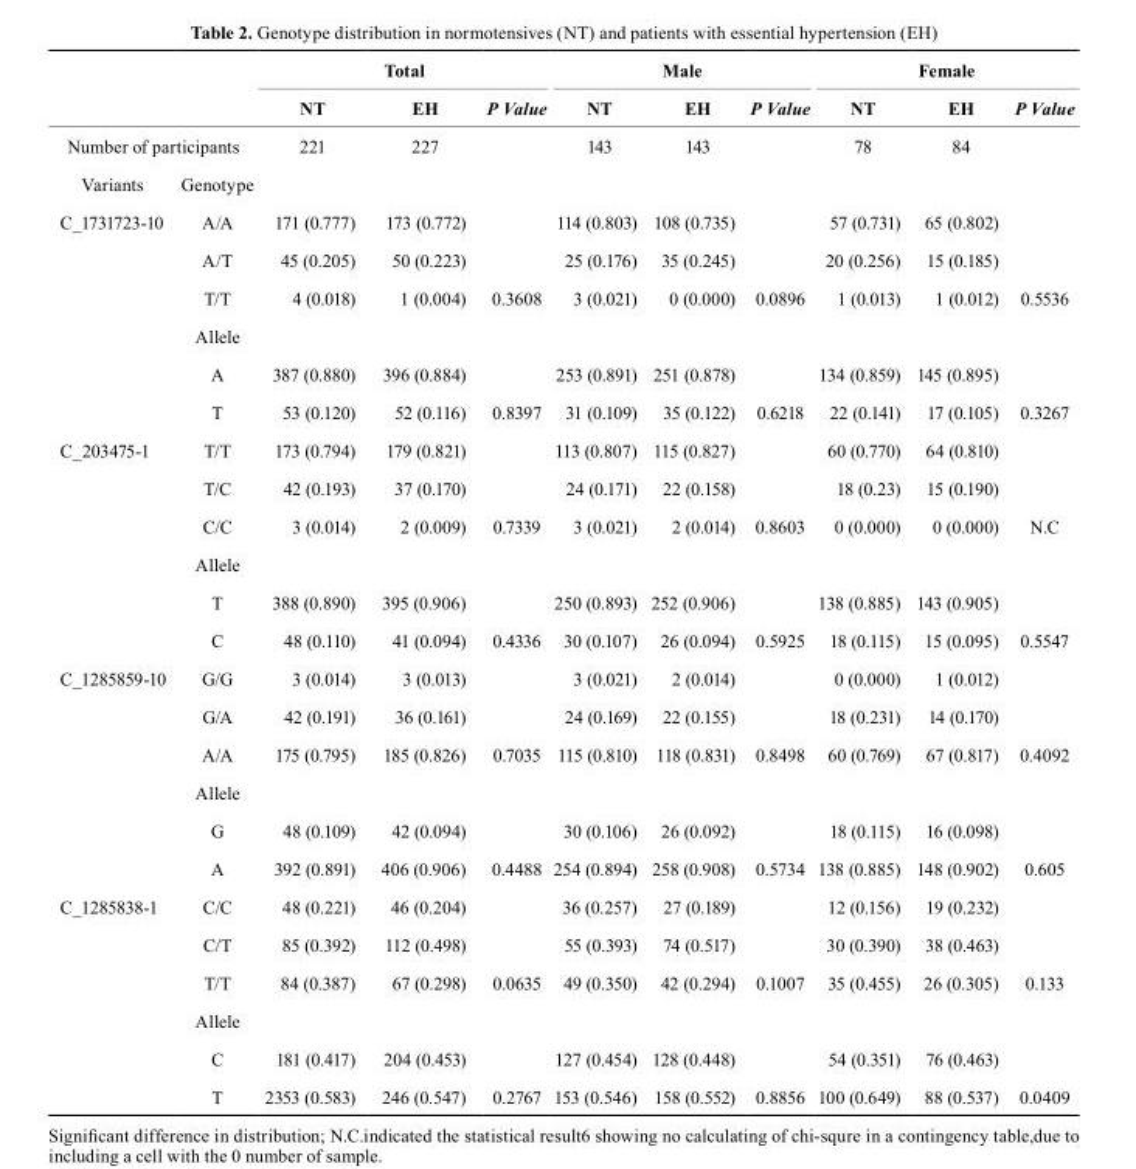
<table><thead><tr><td rowspan="2"></td><td rowspan="2"></td><td colspan="3">total</td><td colspan="3">Male</td><td colspan="3">Female</td></tr><tr><td>Nt</td><td>EH</td><td>P Value</td><td>Nt</td><td>EH</td><td>P Value</td><td>Nt</td><td>EH</td><td>P Value</td></tr></thead><tbody><tr><td colspan="2">Number of participants</td><td>221</td><td>227</td><td></td><td>143</td><td>143</td><td></td><td>78</td><td>84</td><td></td></tr><tr><td>Variants</td><td>Genotype</td><td colspan="9"></td></tr><tr><td rowspan="6">C_1731723-10</td><td>A/A</td><td>171 (0.777)</td><td>173 (0.772)</td><td></td><td>114 (0.803)</td><td>108 (0.735)</td><td></td><td>57 (0.731)</td><td>65 (0.802)</td><td></td></tr><tr><td>A/T</td><td>45 (0.205)</td><td>50 (0.223)</td><td></td><td>25 (0.176)</td><td>35 (0.245)</td><td></td><td>20 (0.256)</td><td>15 (0.185)</td><td></td></tr><tr><td>T/T</td><td>4 (0.018)</td><td>1 (0.004)</td><td>0.3608</td><td>3 (0.021)</td><td>0 (0.000)</td><td>0.0896</td><td>1 (0.013)</td><td>1 (0.012)</td><td>0.5536</td></tr><tr><td>Allele</td><td colspan="9"></td></tr><tr><td>A</td><td>387 (0.880)</td><td>396 (0.884)</td><td></td><td>253 (0.891)</td><td>251 (0.878)</td><td></td><td>134 (0.859)</td><td>145 (0.895)</td><td></td></tr><tr><td>T</td><td>53 (0.120)</td><td>52 (0.116)</td><td>0.8397</td><td>31 (0.109)</td><td>35 (0.122)</td><td>0.6218</td><td>22 (0.141)</td><td>17 (0.105)</td><td>0.3267</td></tr><tr><td rowspan="6">C_203475-1</td><td>T/T</td><td>173 (0.794)</td><td>179 (0.821)</td><td></td><td>113 (0.807)</td><td>115 (0.827)</td><td></td><td>60 (0.770)</td><td>64 (0.810)</td><td></td></tr><tr><td>T/C</td><td>42 (0.193)</td><td>37 (0.170)</td><td></td><td>24 (0.171)</td><td>22 (0.158)</td><td></td><td>18 (0.23)</td><td>15 (0.190)</td><td></td></tr><tr><td>C/C</td><td>3 (0.014)</td><td>2 (0.009)</td><td>0.7339</td><td>3 (0.021)</td><td>2 (0.014)</td><td>0.8603</td><td>0 (0.000)</td><td>0 (0.000)</td><td>N.C</td></tr><tr><td>Allele</td><td colspan="9"></td></tr><tr><td>T</td><td>388 (0.890)</td><td>395 (0.906)</td><td></td><td>250 (0.893)</td><td>252 (0.906)</td><td></td><td>138 (0.885)</td><td>143 (0.905)</td><td></td></tr><tr><td>C</td><td>48 (0.110)</td><td>41 (0.094)</td><td>0.4336</td><td>30 (0.107)</td><td>26 (0.094)</td><td>0.5925</td><td>18 (0.115)</td><td>15 (0.095)</td><td>0.5547</td></tr><tr><td rowspan="6">C_1285859-10</td><td>G/G</td><td>3 (0.014)</td><td>3 (0.013)</td><td></td><td>3 (0.021)</td><td>2 (0.014)</td><td></td><td>0 (0.000)</td><td>1 (0.012)</td><td></td></tr><tr><td>G/A</td><td>42 (0.191)</td><td>36 (0.161)</td><td></td><td>24 (0.169)</td><td>22 (0.155)</td><td></td><td>18 (0.231)</td><td>14 (0.170)</td><td></td></tr><tr><td>A/A</td><td>175 (0.795)</td><td>185 (0.826)</td><td>0.7035</td><td>115 (0.810)</td><td>118 (0.831)</td><td>0.8498</td><td>60 (0.769)</td><td>67 (0.817)</td><td>0.4092</td></tr><tr><td>Allele</td><td colspan="9"></td></tr><tr><td>G</td><td>48 (0.109)</td><td>42 (0.094)</td><td></td><td>30 (0.106)</td><td>26 (0.092)</td><td></td><td>18 (0.115)</td><td>16 (0.098)</td><td></td></tr><tr><td>A</td><td>392 (0.891)</td><td>406 (0.906)</td><td>0.4488</td><td>254 (0.894)</td><td>258 (0.908)</td><td>0.5734</td><td>138 (0.885)</td><td>148 (0.902)</td><td>0.605</td></tr><tr><td rowspan="6">C_1285838-1</td><td>C/C</td><td>48 (0.221)</td><td>46 (0.204)</td><td></td><td>36 (0.257)</td><td>27 (0.189)</td><td></td><td>12 (0.156)</td><td>19 (0.232)</td><td></td></tr><tr><td>C/T</td><td>85 (0.392)</td><td>112 (0.498)</td><td></td><td>55 (0.393)</td><td>74 (0.517)</td><td></td><td>30 (0.390)</td><td>38 (0.463)</td><td></td></tr><tr><td>T/T</td><td>84 (0.387)</td><td>67 (0.298)</td><td>0.0635</td><td>49 (0.350)</td><td>42 (0.294)</td><td>0.1007</td><td>35 (0.455)</td><td>26 (0.305)</td><td>0.133</td></tr><tr><td>Allele</td><td colspan="9"></td></tr><tr><td>C</td><td>181 (0.417)</td><td>204 (0.453)</td><td></td><td>127 (0.454)</td><td>128 (0.448)</td><td></td><td>54 (0.351)</td><td>76 (0.463)</td><td></td></tr><tr><td>T</td><td>2353 (0.583)</td><td>246 (0.547)</td><td>0.2767</td><td>153 (0.546)</td><td>158 (0.552)</td><td>0.8856</td><td>100 (0.649)</td><td>88 (0.537)</td><td>0.0409</td></tr></tbody></table>